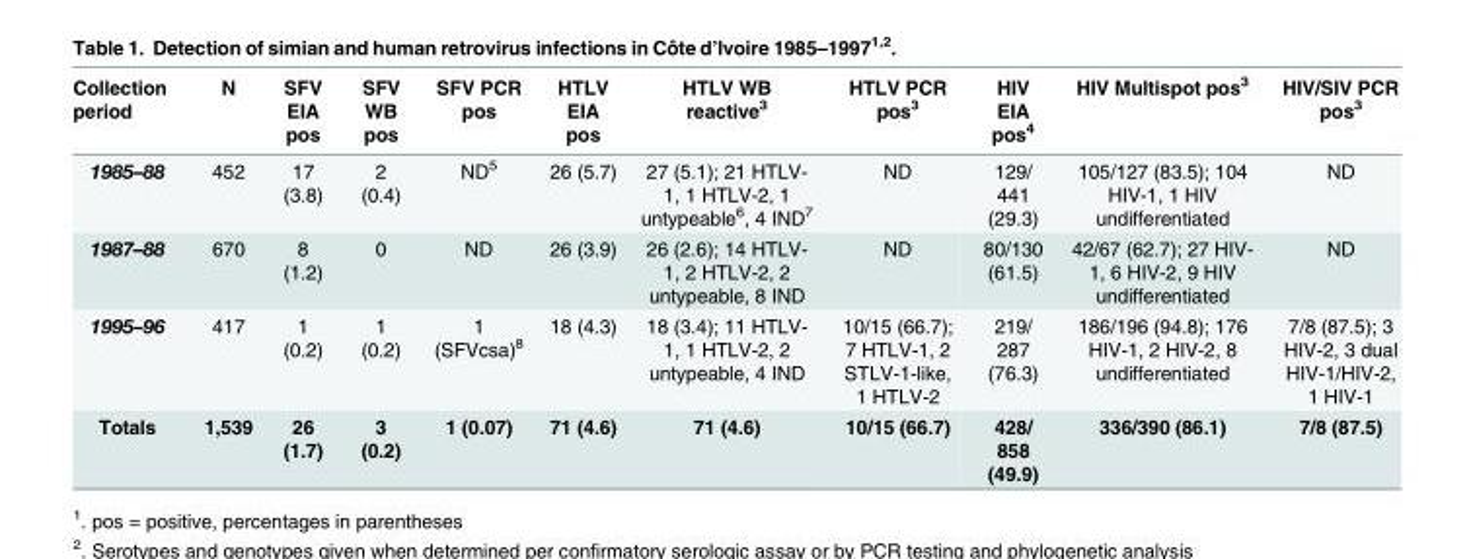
<table><thead><tr><td>Collection period</td><td>N</td><td>SFV EIA pos</td><td>SFV WB pos</td><td>SFV PCR pos</td><td>HTLV EIA pos</td><td>HTLV WB reactive<sup>3</sup></td><td>HTLV PCR pos<sup>3</sup></td><td>HIV EIA pos<sup>4</sup></td><td>HIV Multispot pos<sup>3</sup></td><td>HIV/SIV PCR pos<sup>3</sup></td></tr></thead><tbody><tr><td>1985–88</td><td>452</td><td>17 (3.8)</td><td>2 (0.4)</td><td>ND<sup>5</sup></td><td>26 (5.7)</td><td>27 (5.1); 21 HTLV- 1, 1 HTLV-2, 1 untypeable<sup>6</sup>, 4 IND<sup>7</sup></td><td>ND</td><td>129/ 441 (29.3)</td><td>105/127 (83.5); 104 HIV-1, 1 HIV undifferentiated</td><td>ND</td></tr><tr><td>1987–88</td><td>670</td><td>8 (1.2)</td><td>0</td><td>ND</td><td>26 (3.9)</td><td>26 (2.6); 14 HTLV- 1, 2 HTLV-2, 2 untypeable, 8 IND</td><td>ND</td><td>80/130 (61.5)</td><td>42/67 (62.7); 27 HIV- 1, 6 HIV-2, 9 HIV undifferentiated</td><td>ND</td></tr><tr><td>1995–96</td><td>417</td><td>1 (0.2)</td><td>1 (0.2)</td><td>1 (SFVcsa)<sup>8</sup></td><td>18 (4.3)</td><td>18 (3.4); 11 HTLV- 1, 1 HTLV-2, 2 untypeable, 4 IND</td><td>10/15 (66.7); 7 HTLV-1, 2 STLV-1-like, 1 HTLV-2</td><td>219/ 287 (76.3)</td><td>186/196 (94.8); 176 HIV-1, 2 HIV-2, 8 undifferentiated</td><td>7/8 (87.5); 3 HIV-2, 3 dual HIV-1/HIV-2, 1 HIV-1</td></tr><tr><td>Totals</td><td>1,539</td><td>26 (1.7)</td><td>3 (0.2)</td><td>1 (0.07)</td><td>71 (4.6)</td><td>71 (4.6)</td><td>10/15 (66.7)</td><td>428/ 858 (49.9)</td><td>336/390 (86.1)</td><td>7/8 (87.5)</td></tr></tbody></table>